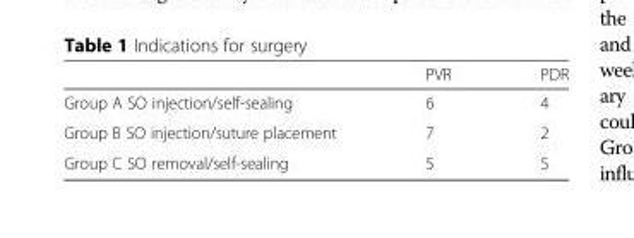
<table><thead><tr><td></td><td>PVR</td><td>PDR</td></tr></thead><tbody><tr><td>Group A SO injection/self-sealing</td><td>6</td><td>4</td></tr><tr><td>Group B SO injection/suture placement</td><td>7</td><td>2</td></tr><tr><td>Group C SO removal/self-sealing</td><td>5</td><td>5</td></tr></tbody></table>